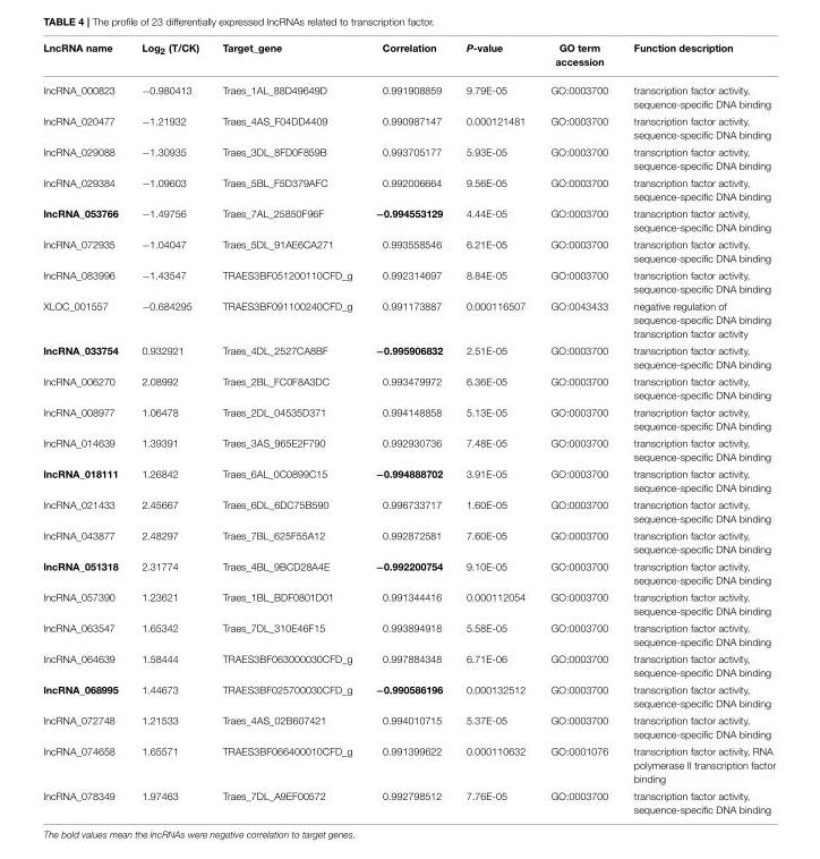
<table><thead><tr><td>LncRNA name</td><td>Log<sub>2</sub> (T/CK)</td><td>Target_gene</td><td>Correlation</td><td>P-value</td><td>GO term accession</td><td>Function description</td></tr></thead><tbody><tr><td>lncRNA_000823</td><td>−0.980413</td><td>Traes_1AL_88D49649D</td><td>0.991908859</td><td>9.79E-05</td><td>GO:0003700</td><td>transcription factor activity, sequence-specific DNA binding</td></tr><tr><td>lncRNA_020477</td><td>−1.21932</td><td>Traes_4AS_F04DD4409</td><td>0.990987147</td><td>0.000121481</td><td>GO:0003700</td><td>transcription factor activity, sequence-specific DNA binding</td></tr><tr><td>lncRNA_029088</td><td>−1.30935</td><td>Traes_3DL_8FD0F859B</td><td>0.993705177</td><td>5.93E-05</td><td>GO:0003700</td><td>transcription factor activity, sequence-specific DNA binding</td></tr><tr><td>lncRNA_029384</td><td>−1.09603</td><td>Traes_5BL_F5D379AFC</td><td>0.992006664</td><td>9.56E-05</td><td>GO:0003700</td><td>transcription factor activity, sequence-specific DNA binding</td></tr><tr><td>lncRNA_053766</td><td>−1.49756</td><td>Traes_7AL_25850F96F</td><td>−0.994553129</td><td>4.44E-05</td><td>GO:0003700</td><td>transcription factor activity, sequence-specific DNA binding</td></tr><tr><td>lncRNA_072935</td><td>−1.04047</td><td>Traes_5DL_91AE6CA271</td><td>0.993558546</td><td>6.21E-05</td><td>GO:0003700</td><td>transcription factor activity, sequence-specific DNA binding</td></tr><tr><td>lncRNA_083996</td><td>−1.43547</td><td>TRAES3BF051200110CFD_g</td><td>0.992314697</td><td>8.84E-05</td><td>GO:0003700</td><td>transcription factor activity, sequence-specific DNA binding</td></tr><tr><td>XLOC_001557</td><td>−0.684295</td><td>TRAES3BF091100240CFD_g</td><td>0.991173887</td><td>0.000116507</td><td>GO:0043433</td><td>negative regulation of sequence-specific DNA binding transcription factor activity</td></tr><tr><td>lncRNA_033754</td><td>0.932921</td><td>Traes_4DL_2527CA8BF</td><td>−0.995906832</td><td>2.51E-05</td><td>GO:0003700</td><td>transcription factor activity, sequence-specific DNA binding</td></tr><tr><td>lncRNA_006270</td><td>2.08992</td><td>Traes_2BL_FC0F8A3DC</td><td>0.993479972</td><td>6.36E-05</td><td>GO:0003700</td><td>transcription factor activity, sequence-specific DNA binding</td></tr><tr><td>lncRNA_008977</td><td>1.06478</td><td>Traes_2DL_04535D371</td><td>0.994148858</td><td>5.13E-05</td><td>GO:0003700</td><td>transcription factor activity, sequence-specific DNA binding</td></tr><tr><td>lncRNA_014639</td><td>1.39391</td><td>Traes_3AS_965E2F790</td><td>0.992930736</td><td>7.48E-05</td><td>GO:0003700</td><td>transcription factor activity, sequence-specific DNA binding</td></tr><tr><td>lncRNA_018111</td><td>1.26842</td><td>Traes_6AL_0C0899C15</td><td>−0.994888702</td><td>3.91E-05</td><td>GO:0003700</td><td>transcription factor activity, sequence-specific DNA binding</td></tr><tr><td>lncRNA_021433</td><td>2.45667</td><td>Traes_6DL_6DC75B590</td><td>0.996733717</td><td>1.60E-05</td><td>GO:0003700</td><td>transcription factor activity, sequence-specific DNA binding</td></tr><tr><td>lncRNA_043877</td><td>2.48297</td><td>Traes_7BL_625F55A12</td><td>0.992872581</td><td>7.60E-05</td><td>GO:0003700</td><td>transcription factor activity, sequence-specific DNA binding</td></tr><tr><td>lncRNA_051318</td><td>2.31774</td><td>Traes_4BL_9BCD28A4E</td><td>−0.992200754</td><td>9.10E-05</td><td>GO:0003700</td><td>transcription factor activity, sequence-specific DNA binding</td></tr><tr><td>lncRNA_057390</td><td>1.23621</td><td>Traes_1BL_BDF0801D01</td><td>0.991344416</td><td>0.000112054</td><td>GO:0003700</td><td>transcription factor activity, sequence-specific DNA binding</td></tr><tr><td>lncRNA_063547</td><td>1.65342</td><td>Traes_7DL_310E46F15</td><td>0.993894918</td><td>5.58E-05</td><td>GO:0003700</td><td>transcription factor activity, sequence-specific DNA binding</td></tr><tr><td>lncRNA_064639</td><td>1.58444</td><td>TRAES3BF063000030CFD_g</td><td>0.997884348</td><td>6.71E-06</td><td>GO:0003700</td><td>transcription factor activity, sequence-specific DNA binding</td></tr><tr><td>lncRNA_068995</td><td>1.44673</td><td>TRAES3BF025700030CFD_g</td><td>−0.990586196</td><td>0.000132512</td><td>GO:0003700</td><td>transcription factor activity, sequence-specific DNA binding</td></tr><tr><td>lncRNA_072748</td><td>1.21533</td><td>Traes_4AS_02B607421</td><td>0.994010715</td><td>5.37E-05</td><td>GO:0003700</td><td>transcription factor activity, sequence-specific DNA binding</td></tr><tr><td>lncRNA_074658</td><td>1.65571</td><td>TRAES3BF066400010CFD_g</td><td>0.991399622</td><td>0.000110632</td><td>GO:0001076</td><td>transcription factor activity, RNA polymerase II transcription factor binding</td></tr><tr><td>lncRNA_078349</td><td>1.97463</td><td>Traes_7DL_A9EF00572</td><td>0.992798512</td><td>7.76E-05</td><td>GO:0003700</td><td>transcription factor activity, sequence-specific DNA binding</td></tr></tbody></table>